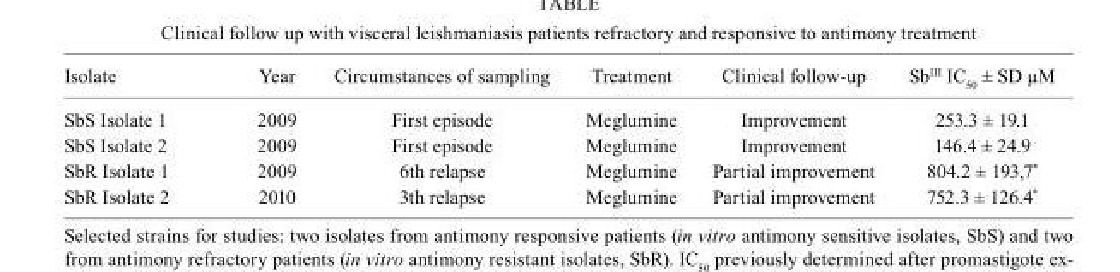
<table><thead><tr><td>Isolate</td><td>Year</td><td>Circumstances of sampling</td><td>Treatment</td><td>Clinical follow-up</td><td>Sb<sup>III</sup> IC<sub>50</sub> ± SD µM</td></tr></thead><tbody><tr><td>SbS Isolate 1</td><td>2009</td><td>First episode</td><td>Meglumine</td><td>Improvement</td><td>253.3 ± 19.1</td></tr><tr><td>SbS Isolate 2</td><td>2009</td><td>First episode</td><td>Meglumine</td><td>Improvement</td><td>146.4 ± 24.9</td></tr><tr><td>SbR Isolate 1</td><td>2009</td><td>6th relapse</td><td>Meglumine</td><td>Partial improvement</td><td>804.2 ± 193,7*</td></tr><tr><td>SbR Isolate 2</td><td>2010</td><td>3th relapse</td><td>Meglumine</td><td>Partial improvement</td><td>752.3 ± 126.4*</td></tr></tbody></table>